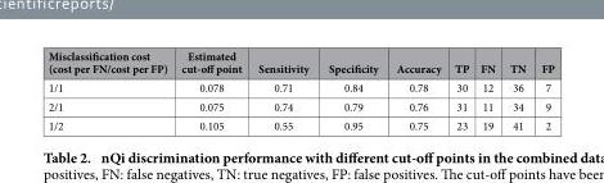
<table><thead><tr><td>Misclassification cost (cost per FN/cost per FP)</td><td>Estimated cut-off point</td><td>Sensitivity</td><td>Specificity</td><td>Accuracy</td><td>TP</td><td>FN</td><td>TN</td><td>FP</td></tr></thead><tbody><tr><td>1/1</td><td>0.078</td><td>0.71</td><td>0.84</td><td>0.78</td><td>30</td><td>12</td><td>36</td><td>7</td></tr><tr><td>2/1</td><td>0.075</td><td>0.74</td><td>0.79</td><td>0.76</td><td>31</td><td>11</td><td>34</td><td>9</td></tr><tr><td>1/2</td><td>0.105</td><td>0.55</td><td>0.95</td><td>0.75</td><td>23</td><td>19</td><td>41</td><td>2</td></tr></tbody></table>